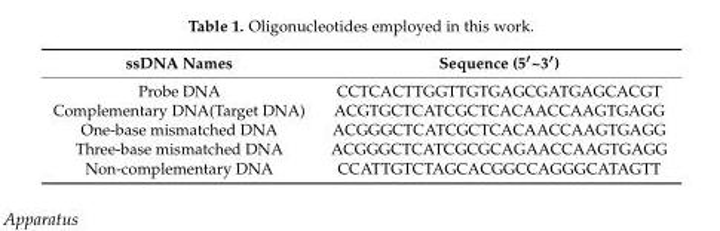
<table><thead><tr><td>ssDNA Names</td><td>Sequence (5′~3′)</td></tr></thead><tbody><tr><td>Probe DNA</td><td>CCTCACTTGGTTGTGAGCGATGAGCACGT</td></tr><tr><td>Complementary DNA(Target DNA)</td><td>ACGTGCTCATCGCTCACAACCAAGTGAGG</td></tr><tr><td>One-base mismatched DNA</td><td>ACGGGCTCATCGCTCACAACCAAGTGAGG</td></tr><tr><td>Three-base mismatched DNA</td><td>ACGGGCTCATCGCGCAGAACCAAGTGAGG</td></tr><tr><td>Non-complementary DNA</td><td>CCATTGTCTAGCACGGCCAGGGCATAGTT</td></tr></tbody></table>